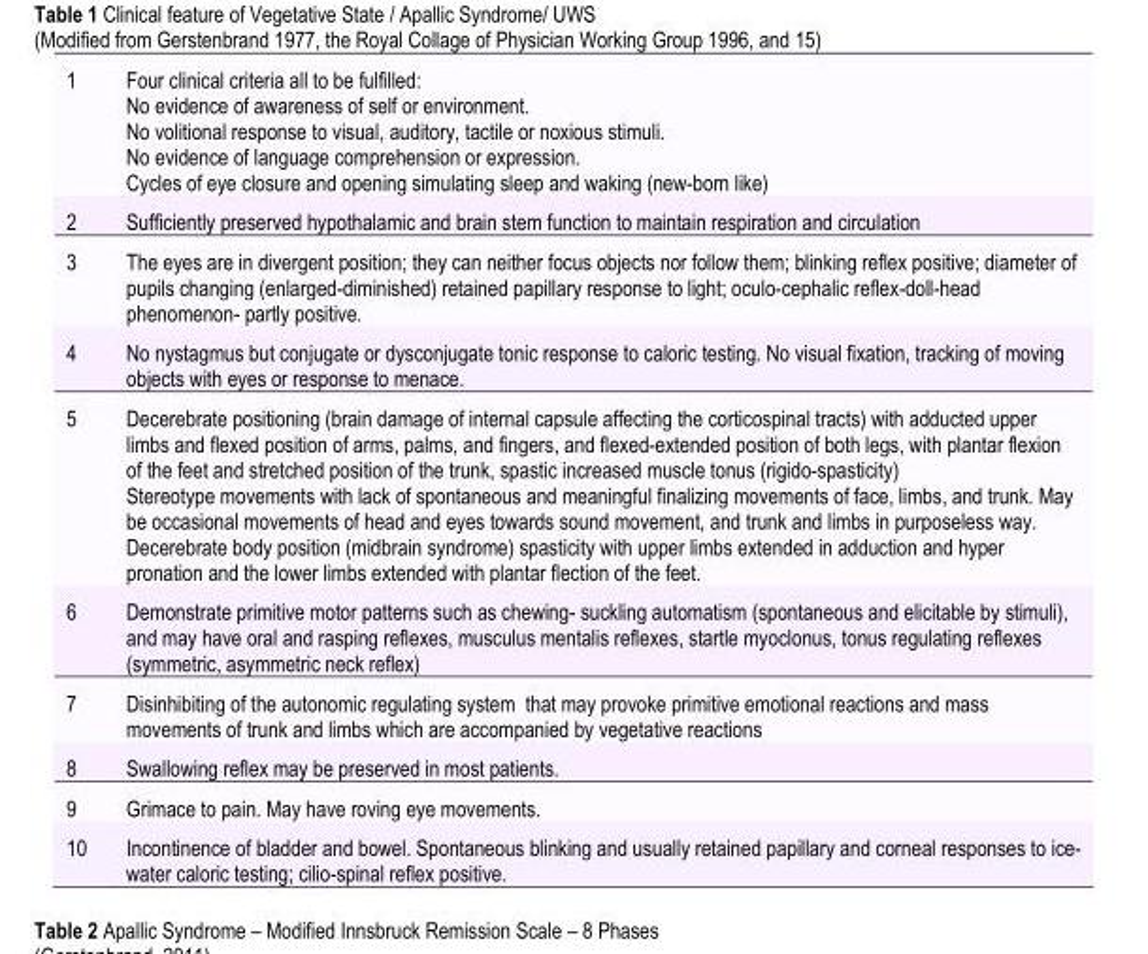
<table><thead><tr><td rowspan="10">1 2 3 4 5 6 7 8 9 10</td><td rowspan="10">Four clinical criteria all to be fulfilled: No evidence of awareness of self or environment. No volitional response to visual, auditory, tactile or noxious stimuli. No evidence of language comprehension or expression. Cycles of eye closure and opening simulating sleep and waking (new-born like) Sufficiently preserved hypothalamic and brain stem function to maintain respiration and circulation The eyes are in divergent position; they can neither focus objects nor follow them; blinking reflex positive; diameter of pupils changing (enlarged-diminished) retained papillary response to light; oculo-cephalic reflex-doll-head phenomenon- partly positive. No nystagmus but conjugate or dysconjugate tonic response to caloric testing. No visual fixation, tracking of moving objects with eyes or response to menace. Decerebrate positioning (brain damage of internal capsule affecting the corticospinal tracts) with adducted upper limbs and flexed position of arms, palms, and fingers, and flexed-extended position of both legs, with plantar flexion of the feet and stretched position of the trunk, spastic increased muscle tonus (rigido-spasticity) Stereotype movements with lack of spontaneous and meaningful finalizing movements of face, limbs, and trunk. May be occasional movements of head and eyes towards sound movement, and trunk and limbs in purposeless way. Decerebrate body position (midbrain syndrome) spasticity with upper limbs extended in adduction and hyper pronation and the lower limbs extended with plantar flection of the feet. Demonstrate primitive motor patterns such as chewing- suckling automatism (spontaneous and elicitable by stimuli), and may have oral and rasping reflexes, musculus mentalis reflexes, startle myoclonus, tonus regulating reflexes (symmetric, asymmetric neck reflex) Disinhibiting of the autonomic regulating system that may provoke primitive emotional reactions and mass movements of trunk and limbs which are accompanied by vegetative reactions Swallowing reflex may be preserved in most patients. Grimace to pain. May have roving eye movements. Incontinence of bladder and bowel. Spontaneous blinking and usually retained papillary and corneal responses to ice- water caloric testing; cilio-spinal reflex positive.</td></tr><tr></tr><tr></tr><tr></tr><tr></tr><tr></tr><tr></tr><tr></tr><tr></tr><tr></tr></thead><tbody></tbody></table>